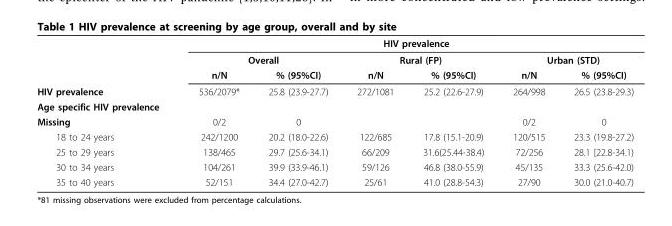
<table><thead><tr><td rowspan="3"></td><td colspan="6">HIV prevalence</td></tr><tr><td colspan="2">Overall</td><td colspan="2">Rural (FP)</td><td colspan="2">Urban (STD)</td></tr><tr><td>n/N</td><td>% (95%CI)</td><td>n/N</td><td>% (95%CI)</td><td>n/N</td><td>% (95%CI)</td></tr></thead><tbody><tr><td>HIV prevalence</td><td>536/2079*</td><td>25.8 (23.9-27.7)</td><td>272/1081</td><td>25.2 (22.6-27.9)</td><td>264/998</td><td>26.5 (23.8-29.3)</td></tr><tr><td colspan="7">Age specific HIV prevalence</td></tr><tr><td>Missing</td><td>0/2</td><td>0</td><td></td><td></td><td>0/2</td><td>0</td></tr><tr><td>18 to 24 years</td><td>242/1200</td><td>20.2 (18.0-22.6)</td><td>122/685</td><td>17.8 (15.1-20.9)</td><td>120/515</td><td>23.3 (19.8-27.2)</td></tr><tr><td>25 to 29 years</td><td>138/465</td><td>29.7 (25.6-34.1)</td><td>66/209</td><td>31.6(25.44-38.4)</td><td>72/256</td><td>28.1 [22.8-34.1)</td></tr><tr><td>30 to 34 years</td><td>104/261</td><td>39.9 (33.9-46.1)</td><td>59/126</td><td>46.8 (38.0-55.9)</td><td>45/135</td><td>33.3 (25.6-42.0)</td></tr><tr><td>35 to 40 years</td><td>52/151</td><td>34.4 (27.0-42.7)</td><td>25/61</td><td>41.0 (28.8-54.3)</td><td>27/90</td><td>30.0 (21.0-40.7)</td></tr></tbody></table>